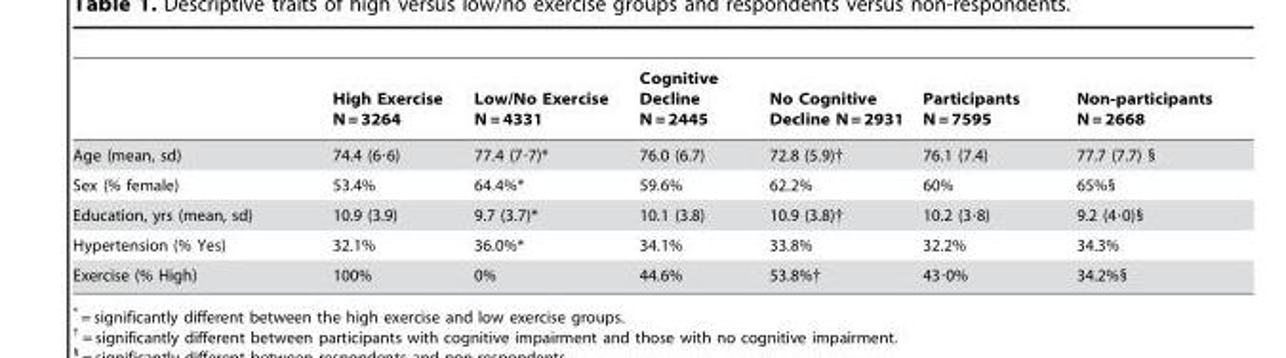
<table><thead><tr><td></td><td>High Exercise N = 3264</td><td>Low/No Exercise N = 4331</td><td>Cognitive Decline N = 2445</td><td>No Cognitive Decline N = 2931</td><td>Participants N = 7595</td><td>Non-participants N = 2668</td></tr></thead><tbody><tr><td>Age (mean, sd)</td><td>74.4 (6·6)</td><td>77.4 (7·7)*</td><td>76.0 (6.7)</td><td>72.8 (5.9)†</td><td>76.1 (7.4)</td><td>77.7 (7.7) §</td></tr><tr><td>Sex (% female)</td><td>53.4%</td><td>64.4%*</td><td>59.6%</td><td>62.2%</td><td>60%</td><td>65%§</td></tr><tr><td>Education, yrs (mean, sd)</td><td>10.9 (3.9)</td><td>9.7 (3.7)*</td><td>10.1 (3.8)</td><td>10.9 (3.8)†</td><td>10.2 (3·8)</td><td>9.2 (4·0)§</td></tr><tr><td>Hypertension (% Yes)</td><td>32.1%</td><td>36.0%*</td><td>34.1%</td><td>33.8%</td><td>32.2%</td><td>34.3%</td></tr><tr><td>Exercise (% High)</td><td>100%</td><td>0%</td><td>44.6%</td><td>53.8%†</td><td>43·0%</td><td>34.2%§</td></tr></tbody></table>